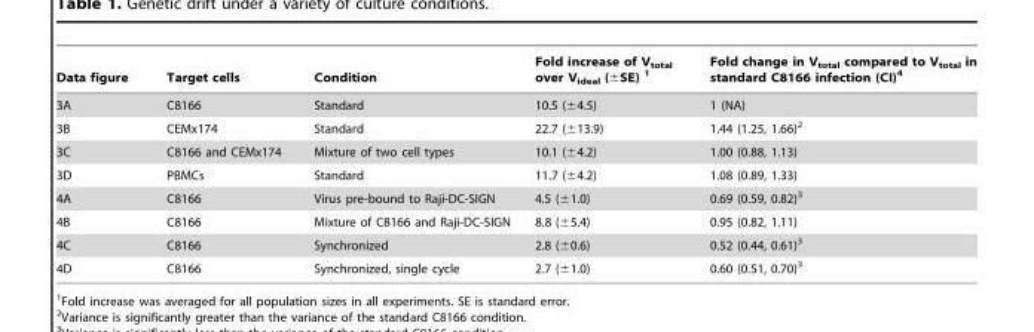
<table><thead><tr><td>Data figure</td><td>Target cells</td><td>Condition</td><td>Fold increase of V<sub>total</sub> over V<sub>ideal</sub> (±SE) 1</td><td>Fold change in V<sub>total</sub> compared to V<sub>total</sub> in standard C8166 infection (CI)<sup>4</sup></td></tr></thead><tbody><tr><td>3A</td><td>C8166</td><td>Standard</td><td>10.5 (±4.5)</td><td>1 (NA)</td></tr><tr><td>3B</td><td>CEMx174</td><td>Standard</td><td>22.7 (±13.9)</td><td>1.44 (1.25, 1.66)<sup>2</sup></td></tr><tr><td>3C</td><td>C8166 and CEMx174</td><td>Mixture of two cell types</td><td>10.1 (±4.2)</td><td>1.00 (0.88, 1.13)</td></tr><tr><td>3D</td><td>PBMCs</td><td>Standard</td><td>11.7 (±4.2)</td><td>1.08 (0.89, 1.33)</td></tr><tr><td>4A</td><td>C8166</td><td>Virus pre-bound to Raji-DC-SIGN</td><td>4.5 (±1.0)</td><td>0.69 (0.59, 0.82)<sup>3</sup></td></tr><tr><td>4B</td><td>C8166</td><td>Mixture of C8166 and Raji-DC-SIGN</td><td>8.8 (±5.4)</td><td>0.95 (0.82, 1.11)</td></tr><tr><td>4C</td><td>C8166</td><td>Synchronized</td><td>2.8 (±0.6)</td><td>0.52 (0.44, 0.61)<sup>3</sup></td></tr><tr><td>4D</td><td>C8166</td><td>Synchronized, single cycle</td><td>2.7 (±1.0)</td><td>0.60 (0.51, 0.70)<sup>3</sup></td></tr></tbody></table>